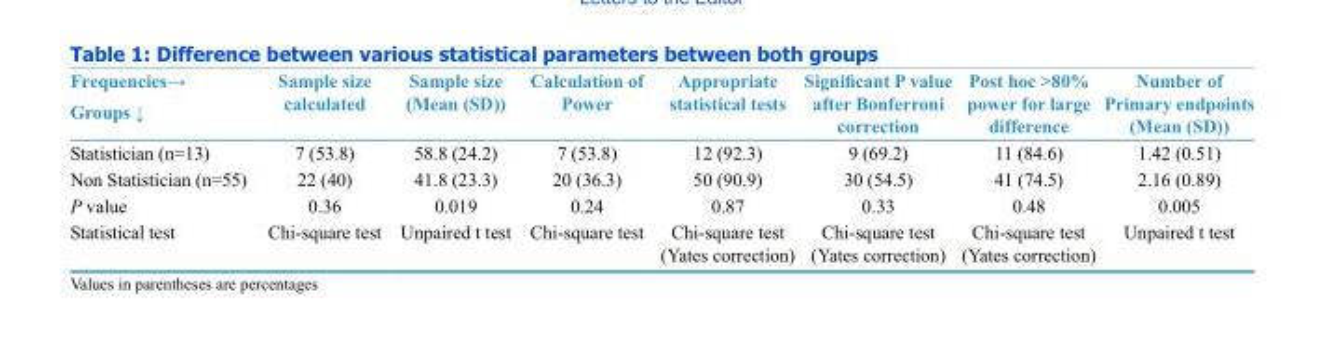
<table><thead><tr><td>Frequencies→ Groups ↓</td><td>Sample size calculated</td><td>Sample size (Mean (SD))</td><td>Calculation of Power</td><td>Appropriate statistical tests</td><td>Significant P value after Bonferroni correction</td><td>Post hoc &gt;80% power for large difference</td><td>Number of Primary endpoints (Mean (SD))</td></tr></thead><tbody><tr><td>Statistician (n=13)</td><td>7 (53.8)</td><td>58.8 (24.2)</td><td>7 (53.8)</td><td>12 (92.3)</td><td>9 (69.2)</td><td>11 (84.6)</td><td>1.42 (0.51)</td></tr><tr><td>Non Statistician (n=55)</td><td>22 (40)</td><td>41.8 (23.3)</td><td>20 (36.3)</td><td>50 (90.9)</td><td>30 (54.5)</td><td>41 (74.5)</td><td>2.16 (0.89)</td></tr><tr><td>P value</td><td>0.36</td><td>0.019</td><td>0.24</td><td>0.87</td><td>0.33</td><td>0.48</td><td>0.005</td></tr><tr><td>Statistical test</td><td>Chi-square test</td><td>Unpaired t test</td><td>Chi-square test</td><td>Chi-square test (Yates correction)</td><td>Chi-square test (Yates correction)</td><td>Chi-square test (Yates correction)</td><td>Unpaired t test</td></tr></tbody></table>